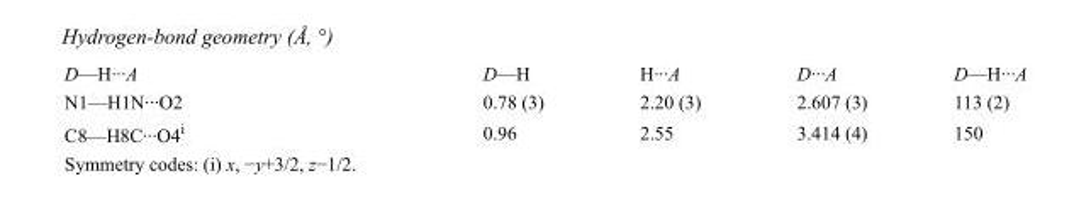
<table><tbody><tr><td>D—H···A</td><td>D—H</td><td>H···A</td><td>D···A</td><td>D—H···A</td></tr><tr><td>N1—H1N···O2</td><td>0.78 (3)</td><td>2.20 (3)</td><td>2.607 (3)</td><td>113 (2)</td></tr><tr><td>C8—H8C···O4<sup>i</sup></td><td>0.96</td><td>2.55</td><td>3.414 (4)</td><td>150</td></tr></tbody></table>